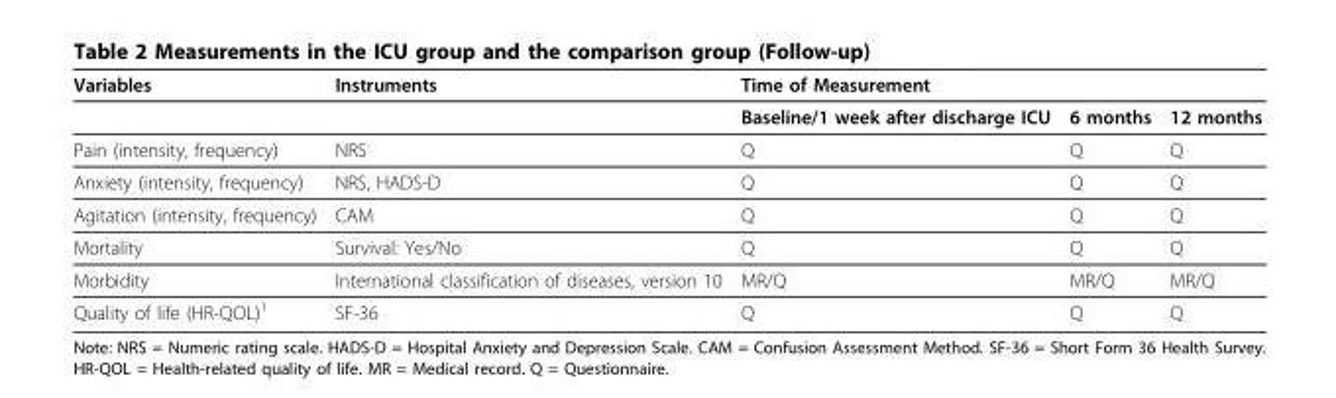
<table><thead><tr><td rowspan="2">Variables</td><td rowspan="2">Instruments</td><td colspan="3">Time of Measurement</td></tr><tr><td>Baseline/1 week after discharge ICU</td><td>6 months</td><td>12 months</td></tr></thead><tbody><tr><td>Pain (intensity, frequency)</td><td>NRS</td><td>Q</td><td>Q</td><td>Q</td></tr><tr><td>Anxiety (intensity, frequency)</td><td>NRS, HADS-D</td><td>Q</td><td>Q</td><td>Q</td></tr><tr><td>Agitation (intensity, frequency)</td><td>CAM</td><td>Q</td><td>Q</td><td>Q</td></tr><tr><td>Mortality</td><td>Survival: Yes/No</td><td>Q</td><td>Q</td><td>Q</td></tr><tr><td>Morbidity</td><td>International classification of diseases, version 10</td><td>MR/Q</td><td>MR/Q</td><td>MR/Q</td></tr><tr><td>Quality of life (HR-QOL)<sup>1</sup></td><td>SF-36</td><td>Q</td><td>Q</td><td>Q</td></tr></tbody></table>